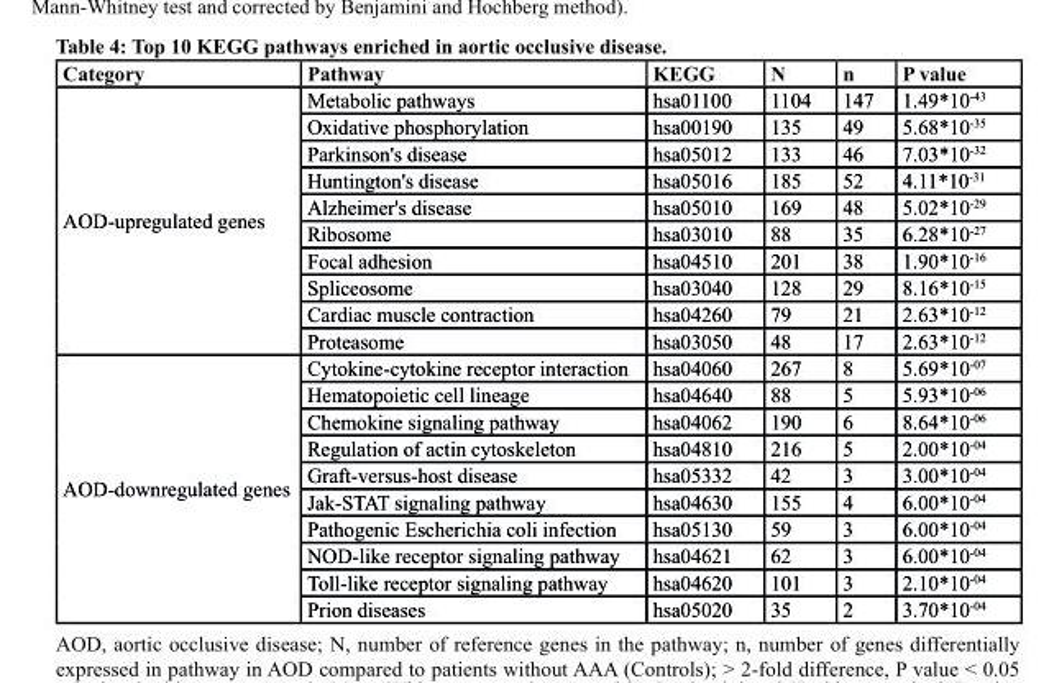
<table><thead><tr><td>category</td><td>Pathway</td><td>KeGG</td><td>n</td><td>n</td><td>P value</td></tr></thead><tbody><tr><td rowspan="10">AOD-upregulated genes</td><td>Metabolic pathways</td><td>hsa01100</td><td>1104</td><td>147</td><td>1.49*10<sup>-43</sup></td></tr><tr><td>Oxidative phosphorylation</td><td>hsa00190</td><td>135</td><td>49</td><td>5.68*10<sup>-35</sup></td></tr><tr><td>Parkinson&#x27;s disease</td><td>hsa05012</td><td>133</td><td>46</td><td>7.03*10<sup>-32</sup></td></tr><tr><td>Huntington&#x27;s disease</td><td>hsa05016</td><td>185</td><td>52</td><td>4.11*10<sup>-31</sup></td></tr><tr><td>Alzheimer&#x27;s disease</td><td>hsa05010</td><td>169</td><td>48</td><td>5.02*10<sup>-29</sup></td></tr><tr><td>Ribosome</td><td>hsa03010</td><td>88</td><td>35</td><td>6.28*10<sup>-27</sup></td></tr><tr><td>Focal adhesion</td><td>hsa04510</td><td>201</td><td>38</td><td>1.90*10<sup>-16</sup></td></tr><tr><td>Spliceosome</td><td>hsa03040</td><td>128</td><td>29</td><td>8.16*10<sup>-15</sup></td></tr><tr><td>Cardiac muscle contraction</td><td>hsa04260</td><td>79</td><td>21</td><td>2.63*10<sup>-12</sup></td></tr><tr><td>Proteasome</td><td>hsa03050</td><td>48</td><td>17</td><td>2.63*10<sup>-12</sup></td></tr><tr><td rowspan="10">AOD-downregulated genes</td><td>Cytokine-cytokine receptor interaction</td><td>hsa04060</td><td>267</td><td>8</td><td>5.69*10<sup>-07</sup></td></tr><tr><td>Hematopoietic cell lineage</td><td>hsa04640</td><td>88</td><td>5</td><td>5.93*10<sup>-06</sup></td></tr><tr><td>Chemokine signaling pathway</td><td>hsa04062</td><td>190</td><td>6</td><td>8.64*10<sup>-06</sup></td></tr><tr><td>Regulation of actin cytoskeleton</td><td>hsa04810</td><td>216</td><td>5</td><td>2.00*10<sup>-04</sup></td></tr><tr><td>Graft-versus-host disease</td><td>hsa05332</td><td>42</td><td>3</td><td>3.00*10<sup>-04</sup></td></tr><tr><td>Jak-STAT signaling pathway</td><td>hsa04630</td><td>155</td><td>4</td><td>6.00*10<sup>-04</sup></td></tr><tr><td>Pathogenic Escherichia coli infection</td><td>hsa05130</td><td>59</td><td>3</td><td>6.00*10<sup>-04</sup></td></tr><tr><td>NOD-like receptor signaling pathway</td><td>hsa04621</td><td>62</td><td>3</td><td>6.00*10<sup>-04</sup></td></tr><tr><td>Toll-like receptor signaling pathway</td><td>hsa04620</td><td>101</td><td>3</td><td>2.10*10<sup>-04</sup></td></tr><tr><td>Prion diseases</td><td>hsa05020</td><td>35</td><td>2</td><td>3.70*10<sup>-04</sup></td></tr></tbody></table>